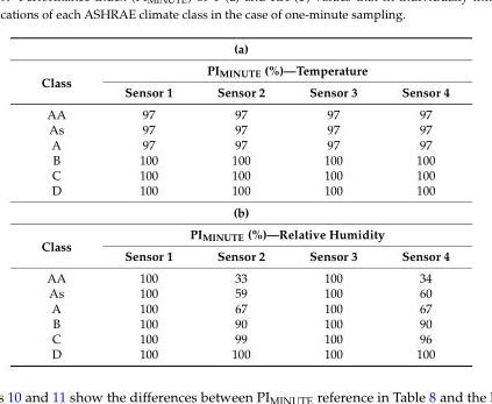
<table><thead><tr><td colspan="5">(a)</td></tr><tr><td rowspan="2">Class</td><td colspan="4">PI<sub>MINUTE</sub> (%)—Temperature</td></tr><tr><td>Sensor 1</td><td>Sensor 2</td><td>Sensor 3</td><td>Sensor 4</td></tr></thead><tbody><tr><td>AA</td><td>97</td><td>97</td><td>97</td><td>97</td></tr><tr><td>As</td><td>97</td><td>97</td><td>97</td><td>97</td></tr><tr><td>A</td><td>97</td><td>97</td><td>97</td><td>97</td></tr><tr><td>B</td><td>100</td><td>100</td><td>100</td><td>100</td></tr><tr><td>C</td><td>100</td><td>100</td><td>100</td><td>100</td></tr><tr><td>D</td><td>100</td><td>100</td><td>100</td><td>100</td></tr><tr><td colspan="5">(b)</td></tr><tr><td rowspan="2">Class</td><td colspan="4">PI<sub>MINUTE</sub> (%)—Relative Humidity</td></tr><tr><td>Sensor 1</td><td>Sensor 2</td><td>Sensor 3</td><td>Sensor 4</td></tr><tr><td>AA</td><td>100</td><td>33</td><td>100</td><td>34</td></tr><tr><td>As</td><td>100</td><td>59</td><td>100</td><td>60</td></tr><tr><td>A</td><td>100</td><td>67</td><td>100</td><td>67</td></tr><tr><td>B</td><td>100</td><td>90</td><td>100</td><td>90</td></tr><tr><td>C</td><td>100</td><td>99</td><td>100</td><td>96</td></tr><tr><td>D</td><td>100</td><td>100</td><td>100</td><td>100</td></tr></tbody></table>